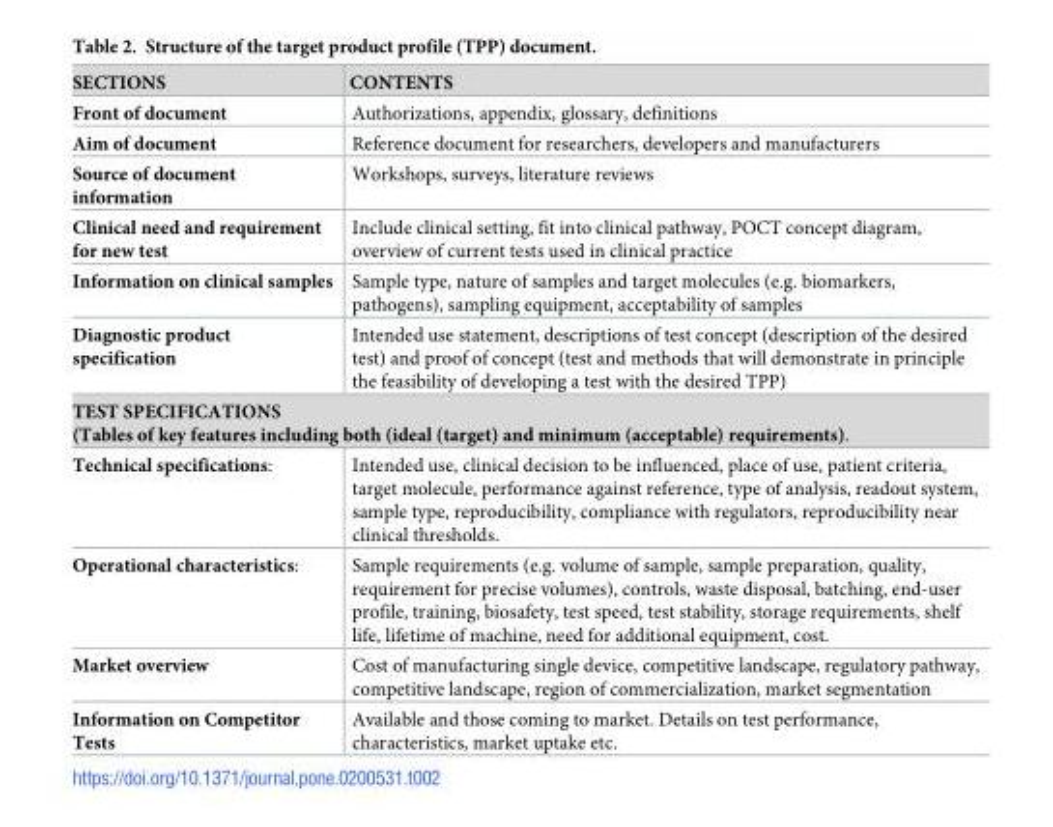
<table><thead><tr><td>SECTIONS</td><td>CONTENTS</td></tr></thead><tbody><tr><td>Front of document</td><td>Authorizations, appendix, glossary, definitions</td></tr><tr><td>Aim of document</td><td>Reference document for researchers, developers and manufacturers</td></tr><tr><td>Source of document information</td><td>Workshops, surveys, literature reviews</td></tr><tr><td>Clinical need and requirement for new test</td><td>Include clinical setting, fit into clinical pathway, POCT concept diagram, overview of current tests used in clinical practice</td></tr><tr><td>Information on clinical samples</td><td>Sample type, nature of samples and target molecules (e.g. biomarkers, pathogens), sampling equipment, acceptability of samples</td></tr><tr><td>Diagnostic product specification</td><td>Intended use statement, descriptions of test concept (description of the desired test) and proof of concept (test and methods that will demonstrate in principle the feasibility of developing a test with the desired TPP)</td></tr><tr><td colspan="2">TEST SPECIFICATIONS (Tables of key features including both (ideal (target) and minimum (acceptable) requirements).</td></tr><tr><td>Technical specifications:</td><td>Intended use, clinical decision to be influenced, place of use, patient criteria, target molecule, performance against reference, type of analysis, readout system, sample type, reproducibility, compliance with regulators, reproducibility near clinical thresholds.</td></tr><tr><td>Operational characteristics:</td><td>Sample requirements (e.g. volume of sample, sample preparation, quality, requirement for precise volumes), controls, waste disposal, batching, end-user profile, training, biosafety, test speed, test stability, storage requirements, shelf life, lifetime of machine, need for additional equipment, cost.</td></tr><tr><td>Market overview</td><td>Cost of manufacturing single device, competitive landscape, regulatory pathway, competitive landscape, region of commercialization, market segmentation</td></tr><tr><td>Information on Competitor Tests</td><td>Available and those coming to market. Details on test performance, characteristics, market uptake etc.</td></tr></tbody></table>